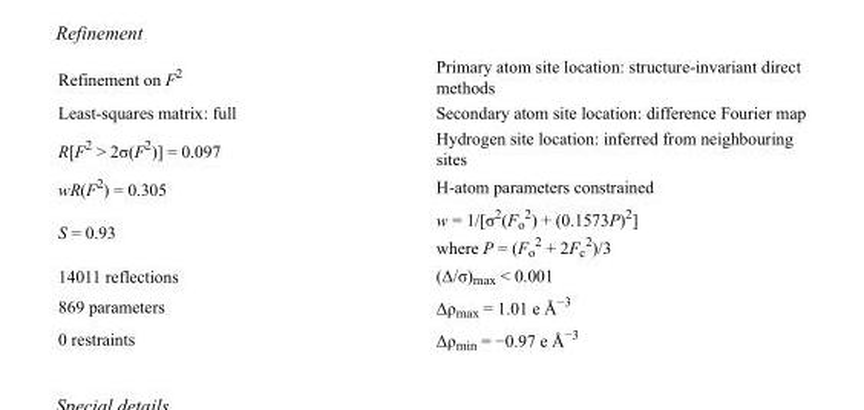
<table><tbody><tr><td>Refinement on F<sup>2</sup></td><td>Primary atom site location: structure-invariant direct methods</td></tr><tr><td>Least-squares matrix: full</td><td>Secondary atom site location: difference Fourier map</td></tr><tr><td>R[F<sup>2</sup> &gt; 2σ(F<sup>2</sup>)] = 0.097</td><td>Hydrogen site location: inferred from neighbouring sites</td></tr><tr><td>wR(F<sup>2</sup>) = 0.305</td><td>H-atom parameters constrained</td></tr><tr><td>S = 0.93</td><td>w = 1/[σ<sup>2</sup>(F<sub>o</sub> <sup>2</sup>) + (0.1573P)<sup>2</sup>] where P = (F<sub>o</sub> <sup>2</sup> + 2F<sub>c</sub> <sup>2</sup>)/3</td></tr><tr><td>14011 reflections</td><td>(Δ/σ)<sub>max</sub> &lt; 0.001</td></tr><tr><td>869 parameters</td><td>Δρ<sub>max</sub> = 1.01 e Å<sup>−3</sup></td></tr><tr><td>0 restraints</td><td>Δρ<sub>min</sub> = −0.97 e Å<sup>−3</sup></td></tr></tbody></table>